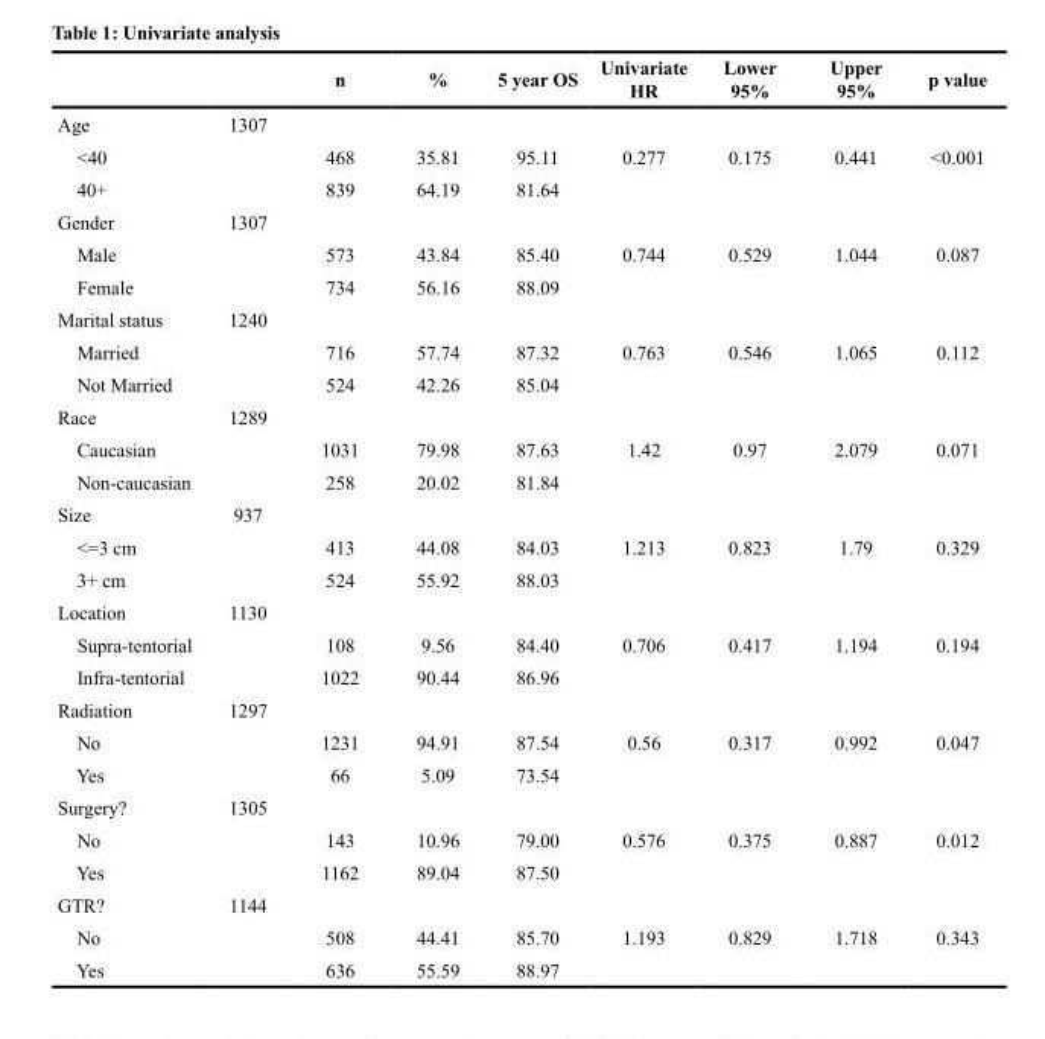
<table><thead><tr><td></td><td></td><td>n</td><td>%</td><td>5 year OS</td><td>Univariate HR</td><td>Lower 95%</td><td>Upper 95%</td><td>p value</td></tr></thead><tbody><tr><td>Age</td><td>1307</td><td></td><td></td><td></td><td></td><td></td><td></td><td></td></tr><tr><td>&lt;40</td><td></td><td>468</td><td>35.81</td><td>95.11</td><td>0.277</td><td>0.175</td><td>0.441</td><td>&lt;0.001</td></tr><tr><td>40+</td><td></td><td>839</td><td>64.19</td><td>81.64</td><td></td><td></td><td></td><td></td></tr><tr><td>Gender</td><td>1307</td><td></td><td></td><td></td><td></td><td></td><td></td><td></td></tr><tr><td>Male</td><td></td><td>573</td><td>43.84</td><td>85.40</td><td>0.744</td><td>0.529</td><td>1.044</td><td>0.087</td></tr><tr><td>Female</td><td></td><td>734</td><td>56.16</td><td>88.09</td><td></td><td></td><td></td><td></td></tr><tr><td>Marital status</td><td>1240</td><td></td><td></td><td></td><td></td><td></td><td></td><td></td></tr><tr><td>Married</td><td></td><td>716</td><td>57.74</td><td>87.32</td><td>0.763</td><td>0.546</td><td>1.065</td><td>0.112</td></tr><tr><td>Not Married</td><td></td><td>524</td><td>42.26</td><td>85.04</td><td></td><td></td><td></td><td></td></tr><tr><td>Race</td><td>1289</td><td></td><td></td><td></td><td></td><td></td><td></td><td></td></tr><tr><td>Caucasian</td><td></td><td>1031</td><td>79.98</td><td>87.63</td><td>1.42</td><td>0.97</td><td>2.079</td><td>0.071</td></tr><tr><td>Non-caucasian</td><td></td><td>258</td><td>20.02</td><td>81.84</td><td></td><td></td><td></td><td></td></tr><tr><td>Size</td><td>937</td><td></td><td></td><td></td><td></td><td></td><td></td><td></td></tr><tr><td>&lt;=3 cm</td><td></td><td>413</td><td>44.08</td><td>84.03</td><td>1.213</td><td>0.823</td><td>1.79</td><td>0.329</td></tr><tr><td>3+ cm</td><td></td><td>524</td><td>55.92</td><td>88.03</td><td></td><td></td><td></td><td></td></tr><tr><td>Location</td><td>1130</td><td></td><td></td><td></td><td></td><td></td><td></td><td></td></tr><tr><td>Supra-tentorial</td><td></td><td>108</td><td>9.56</td><td>84.40</td><td>0.706</td><td>0.417</td><td>1.194</td><td>0.194</td></tr><tr><td>Infra-tentorial</td><td></td><td>1022</td><td>90.44</td><td>86.96</td><td></td><td></td><td></td><td></td></tr><tr><td>Radiation</td><td>1297</td><td></td><td></td><td></td><td></td><td></td><td></td><td></td></tr><tr><td>No</td><td></td><td>1231</td><td>94.91</td><td>87.54</td><td>0.56</td><td>0.317</td><td>0.992</td><td>0.047</td></tr><tr><td>Yes</td><td></td><td>66</td><td>5.09</td><td>73.54</td><td></td><td></td><td></td><td></td></tr><tr><td>Surgery?</td><td>1305</td><td></td><td></td><td></td><td></td><td></td><td></td><td></td></tr><tr><td>No</td><td></td><td>143</td><td>10.96</td><td>79.00</td><td>0.576</td><td>0.375</td><td>0.887</td><td>0.012</td></tr><tr><td>Yes</td><td></td><td>1162</td><td>89.04</td><td>87.50</td><td></td><td></td><td></td><td></td></tr><tr><td>GTR?</td><td>1144</td><td></td><td></td><td></td><td></td><td></td><td></td><td></td></tr><tr><td>No</td><td></td><td>508</td><td>44.41</td><td>85.70</td><td>1.193</td><td>0.829</td><td>1.718</td><td>0.343</td></tr><tr><td>Yes</td><td></td><td>636</td><td>55.59</td><td>88.97</td><td></td><td></td><td></td><td></td></tr></tbody></table>